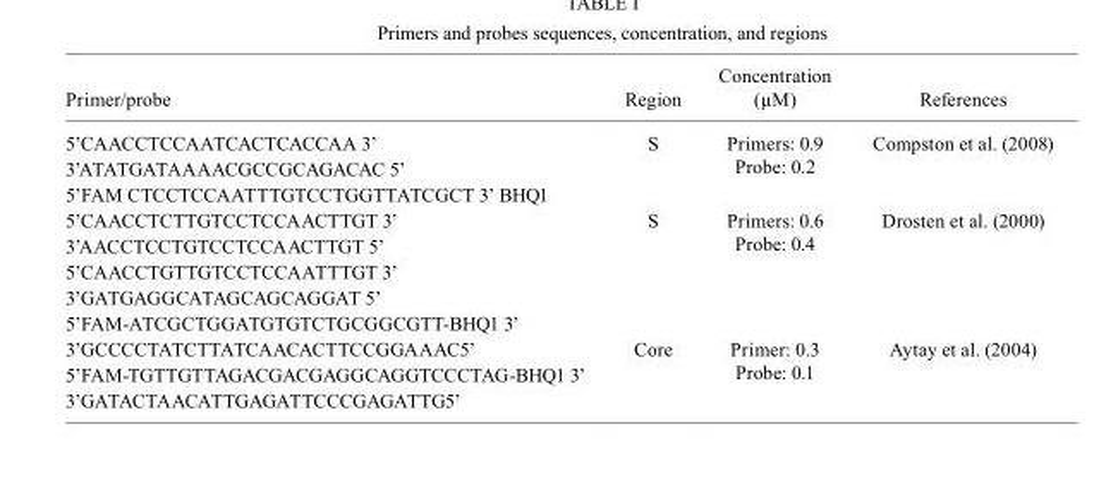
<table><thead><tr><td>Primer/probe</td><td>Region</td><td>Concentration (µM)</td><td>References</td></tr></thead><tbody><tr><td>5’CAACCTCCAATCACTCACCAA 3’</td><td rowspan="3">S</td><td rowspan="3">Primers: 0.9 Probe: 0.2</td><td rowspan="3">Compston et al. (2008)</td></tr><tr><td>3’ATATGATAAAACGCCGCAGACAC 5’</td></tr><tr><td>5’FAM CTCCTCCAATTTGTCCTGGTTATCGCT 3’ BHQ1</td></tr><tr><td>5’CAACCTCTTGTCCTCCAACTTGT 3’</td><td rowspan="5">S</td><td rowspan="5">Primers: 0.6 Probe: 0.4</td><td rowspan="5">Drosten et al. (2000)</td></tr><tr><td>3’AACCTCCTGTCCTCCAACTTGT 5’</td></tr><tr><td>5’CAACCTGTTGTCCTCCAATTTGT 3’</td></tr><tr><td>3’GATGAGGCATAGCAGCAGGAT 5’</td></tr><tr><td>5’FAM-ATCGCTGGATGTGTCTGCGGCGTT-BHQ1 3’</td></tr><tr><td>3’GCCCCTATCTTATCAACACTTCCGGAAAC5’</td><td rowspan="3">Core</td><td rowspan="3">Primer: 0.3 Probe: 0.1</td><td rowspan="3">Aytay et al. (2004)</td></tr><tr><td>5’FAM-TGTTGTTAGACGACGAGGCAGGTCCCTAG-BHQ1 3’</td></tr><tr><td>3’GATACTAACATTGAGATTCCCGAGATTG5’</td></tr></tbody></table>